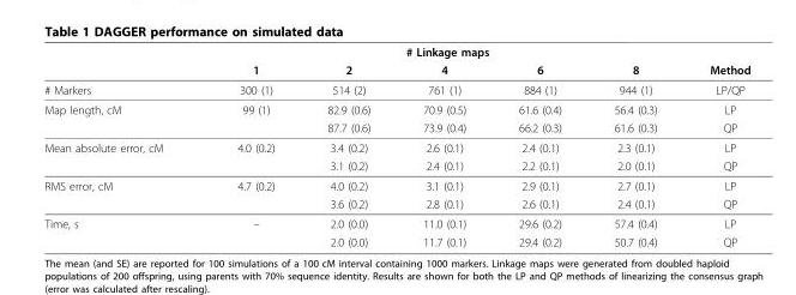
<table><thead><tr><td rowspan="2"></td><td colspan="5"># Linkage maps</td><td rowspan="2">Method</td></tr><tr><td>1</td><td>2</td><td>4</td><td>6</td><td>8</td></tr></thead><tbody><tr><td># Markers</td><td>300 (1)</td><td>514 (2)</td><td>761 (1)</td><td>884 (1)</td><td>944 (1)</td><td>LP/QP</td></tr><tr><td rowspan="2">Map length, cM</td><td>99 (1)</td><td>82.9 (0.6)</td><td>70.9 (0.5)</td><td>61.6 (0.4)</td><td>56.4 (0.3)</td><td>LP</td></tr><tr><td></td><td>87.7 (0.6)</td><td>73.9 (0.4)</td><td>66.2 (0.3)</td><td>61.6 (0.3)</td><td>QP</td></tr><tr><td rowspan="2">Mean absolute error, cM</td><td>4.0 (0.2)</td><td>3.4 (0.2)</td><td>2.6 (0.1)</td><td>2.4 (0.1)</td><td>2.3 (0.1)</td><td>LP</td></tr><tr><td></td><td>3.1 (0.2)</td><td>2.4 (0.1)</td><td>2.2 (0.1)</td><td>2.0 (0.1)</td><td>QP</td></tr><tr><td rowspan="2">RMS error, cM</td><td>4.7 (0.2)</td><td>4.0 (0.2)</td><td>3.1 (0.1)</td><td>2.9 (0.1)</td><td>2.7 (0.1)</td><td>LP</td></tr><tr><td></td><td>3.6 (0.2)</td><td>2.8 (0.1)</td><td>2.6 (0.1)</td><td>2.4 (0.1)</td><td>QP</td></tr><tr><td rowspan="2">Time, s</td><td>–</td><td>2.0 (0.0)</td><td>11.0 (0.1)</td><td>29.6 (0.2)</td><td>57.4 (0.4)</td><td>LP</td></tr><tr><td></td><td>2.0 (0.0)</td><td>11.7 (0.1)</td><td>29.4 (0.2)</td><td>50.7 (0.4)</td><td>QP</td></tr></tbody></table>